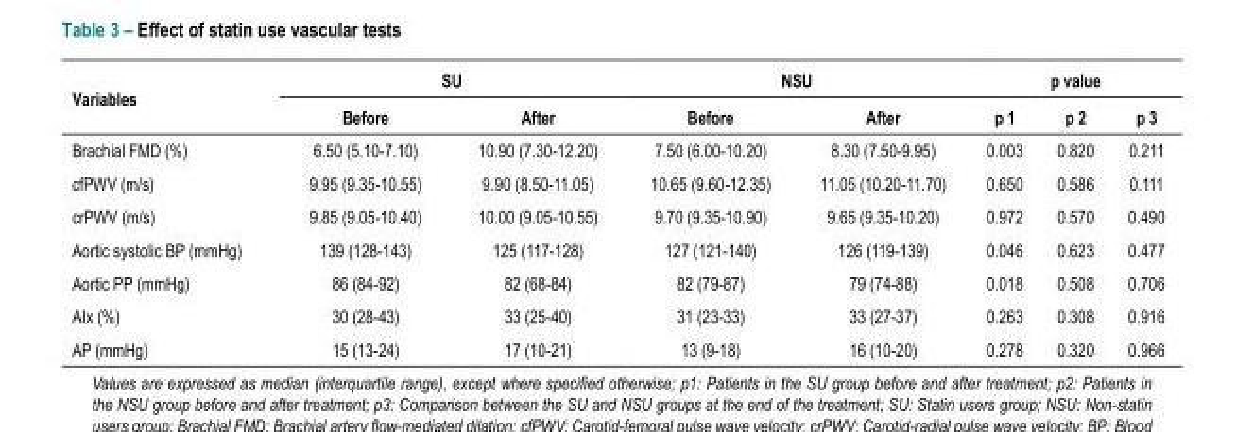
<table><thead><tr><td rowspan="2">Variables</td><td colspan="2">SU</td><td colspan="2">NSU</td><td colspan="3">p value</td></tr><tr><td>Before</td><td>After</td><td>Before</td><td>After</td><td>p 1</td><td>p 2</td><td>p 3</td></tr></thead><tbody><tr><td>Brachial FMD (%)</td><td>6.50 (5.10-7.10)</td><td>10.90 (7.30-12.20)</td><td>7.50 (6.00-10.20)</td><td>8.30 (7.50-9.95)</td><td>0.003</td><td>0.820</td><td>0.211</td></tr><tr><td>cfPWV (m/s)</td><td>9.95 (9.35-10.55)</td><td>9.90 (8.50-11.05)</td><td>10.65 (9.60-12.35)</td><td>11.05 (10.20-11.70)</td><td>0.650</td><td>0.586</td><td>0.111</td></tr><tr><td>crPWV (m/s)</td><td>9.85 (9.05-10.40)</td><td>10.00 (9.05-10.55)</td><td>9.70 (9.35-10.90)</td><td>9.65 (9.35-10.20)</td><td>0.972</td><td>0.570</td><td>0.490</td></tr><tr><td>Aortic systolic BP (mmHg)</td><td>139 (128-143)</td><td>125 (117-128)</td><td>127 (121-140)</td><td>126 (119-139)</td><td>0.046</td><td>0.623</td><td>0.477</td></tr><tr><td>Aortic PP (mmHg)</td><td>86 (84-92)</td><td>82 (68-84)</td><td>82 (79-87)</td><td>79 (74-88)</td><td>0.018</td><td>0.508</td><td>0.706</td></tr><tr><td>AIx (%)</td><td>30 (28-43)</td><td>33 (25-40)</td><td>31 (23-33)</td><td>33 (27-37)</td><td>0.263</td><td>0.308</td><td>0.916</td></tr><tr><td>AP (mmHg)</td><td>15 (13-24)</td><td>17 (10-21)</td><td>13 (9-18)</td><td>16 (10-20)</td><td>0.278</td><td>0.320</td><td>0.966</td></tr></tbody></table>